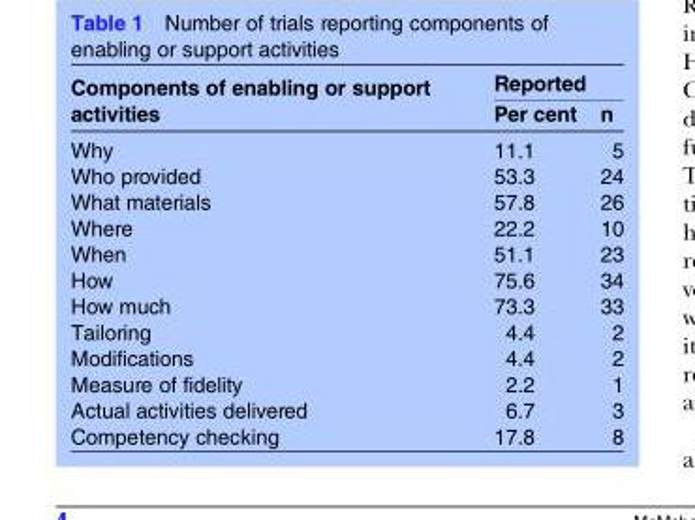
<table><thead><tr><td rowspan="2">Components of enabling or support activities</td><td colspan="2">Reported</td></tr><tr><td>Per cent</td><td>n</td></tr></thead><tbody><tr><td>Why</td><td>11.1</td><td>5</td></tr><tr><td>Who provided</td><td>53.3</td><td>24</td></tr><tr><td>What materials</td><td>57.8</td><td>26</td></tr><tr><td>Where</td><td>22.2</td><td>10</td></tr><tr><td>When</td><td>51.1</td><td>23</td></tr><tr><td>How</td><td>75.6</td><td>34</td></tr><tr><td>How much</td><td>73.3</td><td>33</td></tr><tr><td>Tailoring</td><td>4.4</td><td>2</td></tr><tr><td>Modifications</td><td>4.4</td><td>2</td></tr><tr><td>Measure of fidelity</td><td>2.2</td><td>1</td></tr><tr><td>Actual activities delivered</td><td>6.7</td><td>3</td></tr><tr><td>Competency checking</td><td>17.8</td><td>8</td></tr></tbody></table>